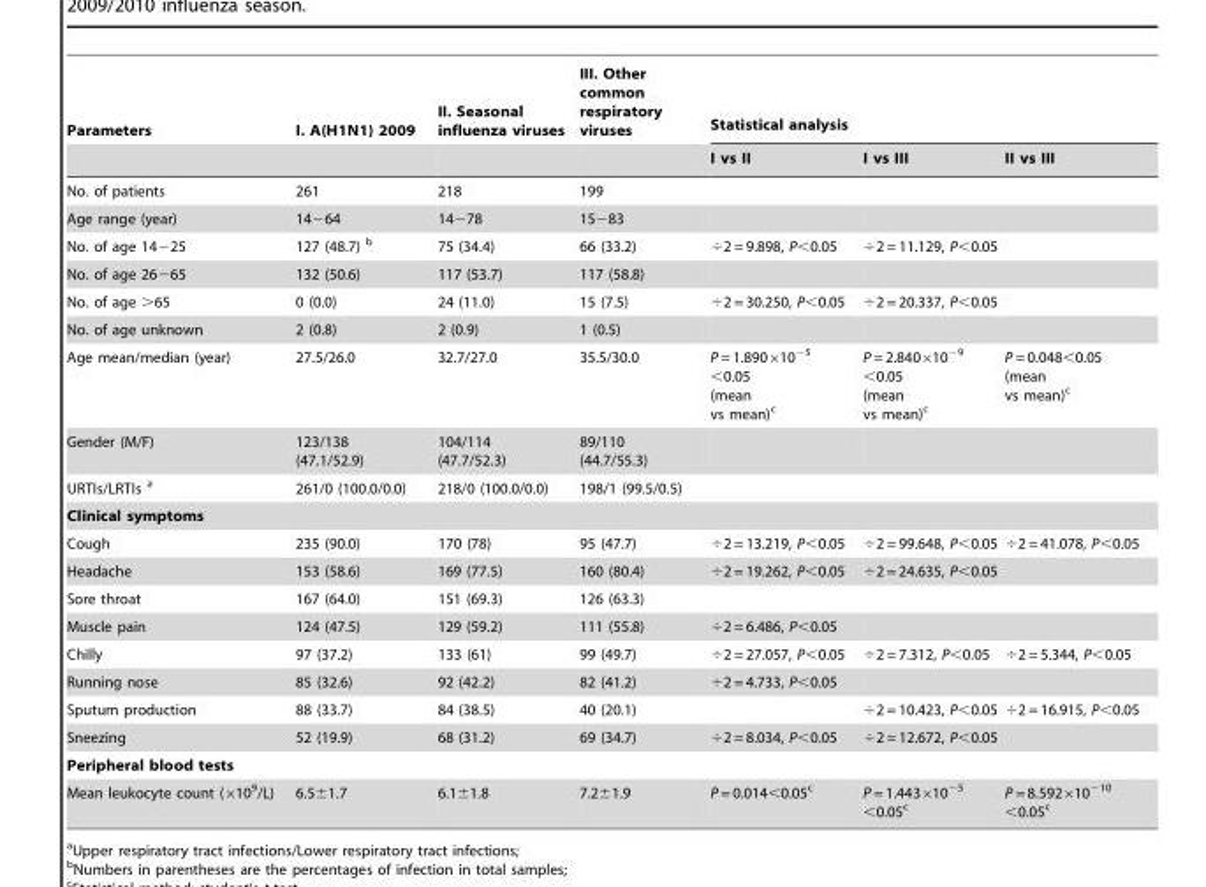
<table><thead><tr><td rowspan="2">Parameters</td><td rowspan="2">I. A(H1N1) 2009</td><td rowspan="2">II. Seasonal influenza viruses</td><td rowspan="2">III. Other common respiratory viruses</td><td colspan="3">Statistical analysis</td></tr><tr><td>I vs II</td><td>I vs III</td><td>II vs III</td></tr></thead><tbody><tr><td>No. of patients</td><td>261</td><td>218</td><td>199</td><td></td><td></td><td></td></tr><tr><td>Age range (year)</td><td>14−64</td><td>14−78</td><td>15−83</td><td></td><td></td><td></td></tr><tr><td>No. of age 14−25</td><td>127 (48.7) b</td><td>75 (34.4)</td><td>66 (33.2)</td><td>÷2 = 9.898, P&lt;0.05</td><td>÷2 = 11.129, P&lt;0.05</td><td></td></tr><tr><td>No. of age 26−65</td><td>132 (50.6)</td><td>117 (53.7)</td><td>117 (58.8)</td><td></td><td></td><td></td></tr><tr><td>No. of age &gt;65</td><td>0 (0.0)</td><td>24 (11.0)</td><td>15 (7.5)</td><td>÷2 = 30.250, P&lt;0.05</td><td>÷2 = 20.337, P&lt;0.05</td><td></td></tr><tr><td>No. of age unknown</td><td>2 (0.8)</td><td>2 (0.9)</td><td>1 (0.5)</td><td></td><td></td><td></td></tr><tr><td>Age mean/median (year)</td><td>27.5/26.0</td><td>32.7/27.0</td><td>35.5/30.0</td><td>P = 1.890×10<sup>−5</sup> &lt;0.05 (mean vs mean)<sup>c</sup></td><td>P = 2.840×10<sup>−9</sup> &lt;0.05 (mean vs mean)<sup>c</sup></td><td>P = 0.048&lt;0.05 (mean vs mean)<sup>c</sup></td></tr><tr><td>Gender (M/F)</td><td>123/138 (47.1/52.9)</td><td>104/114 (47.7/52.3)</td><td>89/110 (44.7/55.3)</td><td></td><td></td><td></td></tr><tr><td>URTIs/LRTIs a</td><td>261/0 (100.0/0.0)</td><td>218/0 (100.0/0.0)</td><td>198/1 (99.5/0.5)</td><td></td><td></td><td></td></tr><tr><td colspan="7">Clinical symptoms</td></tr><tr><td>Cough</td><td>235 (90.0)</td><td>170 (78)</td><td>95 (47.7)</td><td>÷2 = 13.219, P&lt;0.05</td><td>÷2 = 99.648, P&lt;0.05</td><td>÷2 = 41.078, P&lt;0.05</td></tr><tr><td>Headache</td><td>153 (58.6)</td><td>169 (77.5)</td><td>160 (80.4)</td><td>÷2 = 19.262, P&lt;0.05</td><td>÷2 = 24.635, P&lt;0.05</td><td></td></tr><tr><td>Sore throat</td><td>167 (64.0)</td><td>151 (69.3)</td><td>126 (63.3)</td><td></td><td></td><td></td></tr><tr><td>Muscle pain</td><td>124 (47.5)</td><td>129 (59.2)</td><td>111 (55.8)</td><td>÷2 = 6.486, P&lt;0.05</td><td></td><td></td></tr><tr><td>Chilly</td><td>97 (37.2)</td><td>133 (61)</td><td>99 (49.7)</td><td>÷2 = 27.057, P&lt;0.05</td><td>÷2 = 7.312, P&lt;0.05</td><td>÷2 = 5.344, P&lt;0.05</td></tr><tr><td>Running nose</td><td>85 (32.6)</td><td>92 (42.2)</td><td>82 (41.2)</td><td>÷2 = 4.733, P&lt;0.05</td><td></td><td></td></tr><tr><td>Sputum production</td><td>88 (33.7)</td><td>84 (38.5)</td><td>40 (20.1)</td><td></td><td>÷2 = 10.423, P&lt;0.05</td><td>÷2 = 16.915, P&lt;0.05</td></tr><tr><td>Sneezing</td><td>52 (19.9)</td><td>68 (31.2)</td><td>69 (34.7)</td><td>÷2 = 8.034, P&lt;0.05</td><td>÷2 = 12.672, P&lt;0.05</td><td></td></tr><tr><td colspan="7">Peripheral blood tests</td></tr><tr><td>Mean leukocyte count (×10<sup>9</sup>/L)</td><td>6.5±1.7</td><td>6.1±1.8</td><td>7.2±1.9</td><td>P = 0.014&lt;0.05<sup>c</sup></td><td>P = 1.443×10<sup>−5</sup> &lt;0.05<sup>c</sup></td><td>P = 8.592×10<sup>−10</sup> &lt;0.05<sup>c</sup></td></tr></tbody></table>